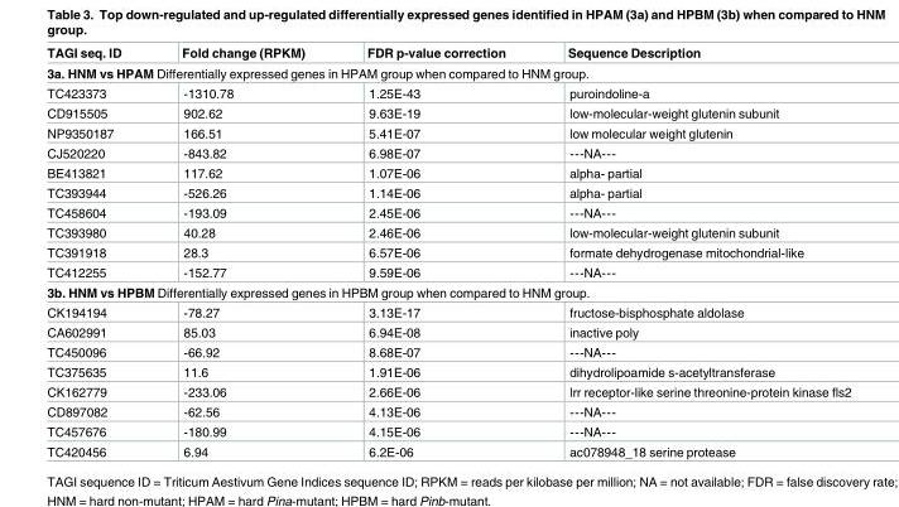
<table><thead><tr><td>TAGI seq. ID</td><td>Fold change (RPKM)</td><td>FDR p-value correction</td><td>Sequence Description</td></tr></thead><tbody><tr><td colspan="4">3a. HNM vs HPAM Differentially expressed genes in HPAM group when compared to HNM group.</td></tr><tr><td>TC423373</td><td>-1310.78</td><td>1.25E-43</td><td>puroindoline-a</td></tr><tr><td>CD915505</td><td>902.62</td><td>9.63E-19</td><td>low-molecular-weight glutenin subunit</td></tr><tr><td>NP9350187</td><td>166.51</td><td>5.41E-07</td><td>low molecular weight glutenin</td></tr><tr><td>CJ520220</td><td>-843.82</td><td>6.98E-07</td><td>---NA---</td></tr><tr><td>BE413821</td><td>117.62</td><td>1.07E-06</td><td>alpha- partial</td></tr><tr><td>TC393944</td><td>-526.26</td><td>1.14E-06</td><td>alpha- partial</td></tr><tr><td>TC458604</td><td>-193.09</td><td>2.45E-06</td><td>---NA---</td></tr><tr><td>TC393980</td><td>40.28</td><td>2.46E-06</td><td>low-molecular-weight glutenin subunit</td></tr><tr><td>TC391918</td><td>28.3</td><td>6.57E-06</td><td>formate dehydrogenase mitochondrial-like</td></tr><tr><td>TC412255</td><td>-152.77</td><td>9.59E-06</td><td>---NA---</td></tr><tr><td colspan="4">3b. HNM vs HPBM Differentially expressed genes in HPBM group when compared to HNM group.</td></tr><tr><td>CK194194</td><td>-78.27</td><td>3.13E-17</td><td>fructose-bisphosphate aldolase</td></tr><tr><td>CA602991</td><td>85.03</td><td>6.94E-08</td><td>inactive poly</td></tr><tr><td>TC450096</td><td>-66.92</td><td>8.68E-07</td><td>---NA---</td></tr><tr><td>TC375635</td><td>11.6</td><td>1.91E-06</td><td>dihydrolipoamide s-acetyltransferase</td></tr><tr><td>CK162779</td><td>-233.06</td><td>2.66E-06</td><td>lrr receptor-like serine threonine-protein kinase fls2</td></tr><tr><td>CD897082</td><td>-62.56</td><td>4.13E-06</td><td>---NA---</td></tr><tr><td>TC457676</td><td>-180.99</td><td>4.15E-06</td><td>---NA---</td></tr><tr><td>TC420456</td><td>6.94</td><td>6.2E-06</td><td>ac078948_18 serine protease</td></tr></tbody></table>